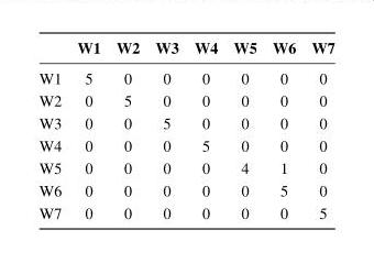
<table><thead><tr><td></td><td>W1</td><td>W2</td><td>W3</td><td>W4</td><td>W5</td><td>W6</td><td>W7</td></tr></thead><tbody><tr><td>W1</td><td>5</td><td>0</td><td>0</td><td>0</td><td>0</td><td>0</td><td>0</td></tr><tr><td>W2</td><td>0</td><td>5</td><td>0</td><td>0</td><td>0</td><td>0</td><td>0</td></tr><tr><td>W3</td><td>0</td><td>0</td><td>5</td><td>0</td><td>0</td><td>0</td><td>0</td></tr><tr><td>W4</td><td>0</td><td>0</td><td>0</td><td>5</td><td>0</td><td>0</td><td>0</td></tr><tr><td>W5</td><td>0</td><td>0</td><td>0</td><td>0</td><td>4</td><td>1</td><td>0</td></tr><tr><td>W6</td><td>0</td><td>0</td><td>0</td><td>0</td><td>0</td><td>5</td><td>0</td></tr><tr><td>W7</td><td>0</td><td>0</td><td>0</td><td>0</td><td>0</td><td>0</td><td>5</td></tr></tbody></table>